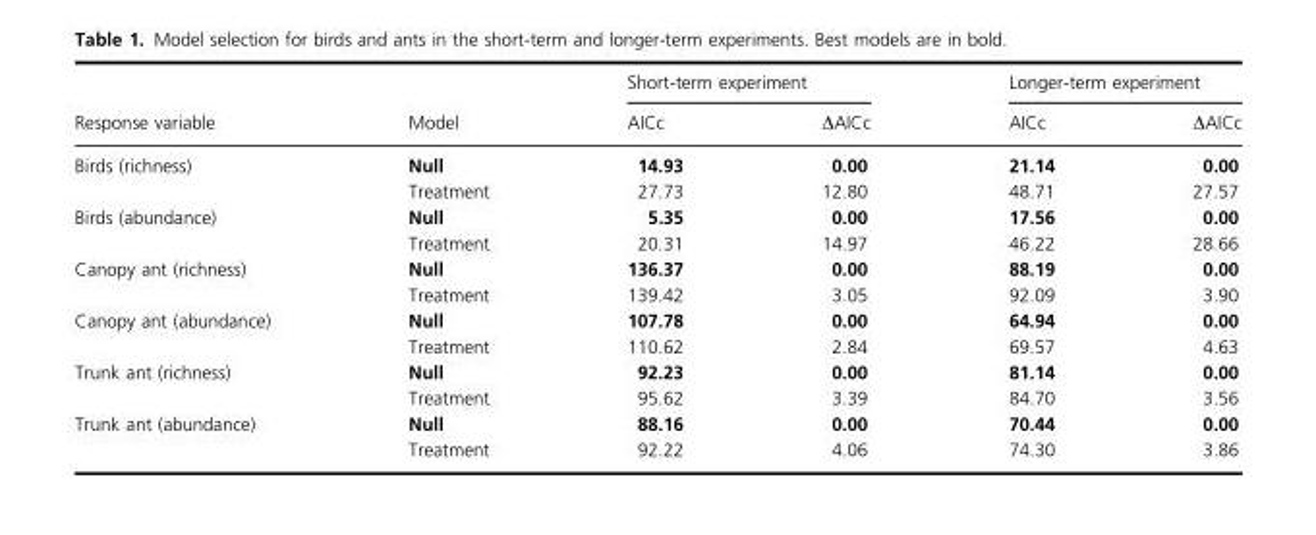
<table><thead><tr><td rowspan="2">Response variable</td><td rowspan="2">Model</td><td colspan="2">Short-term experiment</td><td colspan="2">Longer-term experiment</td></tr><tr><td>AICc</td><td>ΔAICc</td><td>AICc</td><td>ΔAICc</td></tr></thead><tbody><tr><td rowspan="2">Birds (richness)</td><td>Null</td><td>14.93</td><td>0.00</td><td>21.14</td><td>0.00</td></tr><tr><td>Treatment</td><td>27.73</td><td>12.80</td><td>48.71</td><td>27.57</td></tr><tr><td rowspan="2">Birds (abundance)</td><td>Null</td><td>5.35</td><td>0.00</td><td>17.56</td><td>0.00</td></tr><tr><td>Treatment</td><td>20.31</td><td>14.97</td><td>46.22</td><td>28.66</td></tr><tr><td rowspan="2">Canopy ant (richness)</td><td>Null</td><td>136.37</td><td>0.00</td><td>88.19</td><td>0.00</td></tr><tr><td>Treatment</td><td>139.42</td><td>3.05</td><td>92.09</td><td>3.90</td></tr><tr><td rowspan="2">Canopy ant (abundance)</td><td>Null</td><td>107.78</td><td>0.00</td><td>64.94</td><td>0.00</td></tr><tr><td>Treatment</td><td>110.62</td><td>2.84</td><td>69.57</td><td>4.63</td></tr><tr><td rowspan="2">Trunk ant (richness)</td><td>Null</td><td>92.23</td><td>0.00</td><td>81.14</td><td>0.00</td></tr><tr><td>Treatment</td><td>95.62</td><td>3.39</td><td>84.70</td><td>3.56</td></tr><tr><td rowspan="2">Trunk ant (abundance)</td><td>Null</td><td>88.16</td><td>0.00</td><td>70.44</td><td>0.00</td></tr><tr><td>Treatment</td><td>92.22</td><td>4.06</td><td>74.30</td><td>3.86</td></tr></tbody></table>